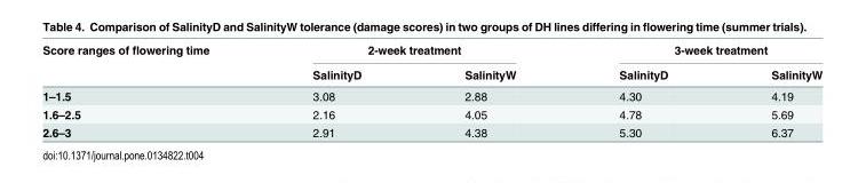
<table><thead><tr><td rowspan="2">Score ranges of flowering time</td><td colspan="2">2-week treatment</td><td colspan="2">3-week treatment</td></tr><tr><td>SalinityD</td><td>SalinityW</td><td>SalinityD</td><td>SalinityW</td></tr></thead><tbody><tr><td>1–1.5</td><td>3.08</td><td>2.88</td><td>4.30</td><td>4.19</td></tr><tr><td>1.6–2.5</td><td>2.16</td><td>4.05</td><td>4.78</td><td>5.69</td></tr><tr><td>2.6–3</td><td>2.91</td><td>4.38</td><td>5.30</td><td>6.37</td></tr></tbody></table>